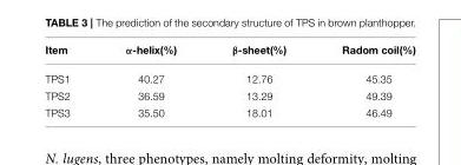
<table><thead><tr><td>Item</td><td>α-helix(%)</td><td>β-sheet(%)</td><td>Radom coil(%)</td></tr></thead><tbody><tr><td>TPS1</td><td>40.27</td><td>12.76</td><td>45.35</td></tr><tr><td>TPS2</td><td>36.59</td><td>13.29</td><td>49.39</td></tr><tr><td>TPS3</td><td>35.50</td><td>18.01</td><td>46.49</td></tr></tbody></table>